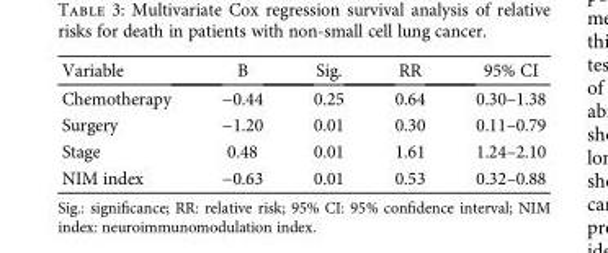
<table><thead><tr><td>Variable</td><td>B</td><td>Sig.</td><td>RR</td><td>95% CI</td></tr></thead><tbody><tr><td>Chemotherapy</td><td>−0.44</td><td>0.25</td><td>0.64</td><td>0.30–1.38</td></tr><tr><td>Surgery</td><td>−1.20</td><td>0.01</td><td>0.30</td><td>0.11–0.79</td></tr><tr><td>Stage</td><td>0.48</td><td>0.01</td><td>1.61</td><td>1.24–2.10</td></tr><tr><td>NIM index</td><td>−0.63</td><td>0.01</td><td>0.53</td><td>0.32–0.88</td></tr></tbody></table>